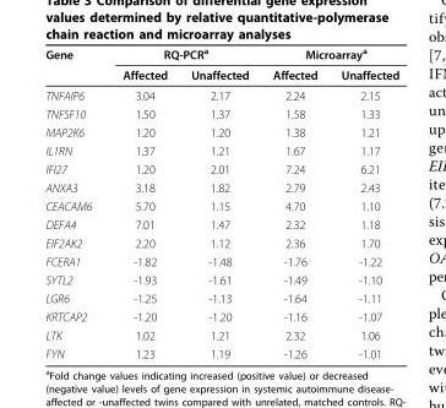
<table><thead><tr><td rowspan="2">Gene</td><td colspan="2">RQ-PCR<sup>a</sup></td><td colspan="2">Microarray<sup>a</sup></td></tr><tr><td>Affected</td><td>Unaffected</td><td>Affected</td><td>Unaffected</td></tr></thead><tbody><tr><td>TNFAIP6</td><td>3.04</td><td>2.17</td><td>2.24</td><td>2.15</td></tr><tr><td>TNFSF10</td><td>1.50</td><td>1.37</td><td>1.58</td><td>1.33</td></tr><tr><td>MAP2K6</td><td>1.20</td><td>1.20</td><td>1.38</td><td>1.21</td></tr><tr><td>IL1RN</td><td>1.37</td><td>1.21</td><td>1.67</td><td>1.17</td></tr><tr><td>IFI27</td><td>1.20</td><td>2.01</td><td>7.24</td><td>6.21</td></tr><tr><td>ANXA3</td><td>3.18</td><td>1.82</td><td>2.79</td><td>2.43</td></tr><tr><td>CEACAM6</td><td>5.70</td><td>1.15</td><td>4.70</td><td>1.10</td></tr><tr><td>DEFA4</td><td>7.01</td><td>1.47</td><td>2.32</td><td>1.18</td></tr><tr><td>EIF2AK2</td><td>2.20</td><td>1.12</td><td>2.36</td><td>1.70</td></tr><tr><td>FCERA1</td><td>-1.82</td><td>-1.48</td><td>-1.76</td><td>-1.22</td></tr><tr><td>SYTL2</td><td>-1.93</td><td>-1.61</td><td>-1.49</td><td>-1.10</td></tr><tr><td>LGR6</td><td>-1.25</td><td>-1.13</td><td>-1.64</td><td>-1.11</td></tr><tr><td>KRTCAP2</td><td>-1.20</td><td>-1.20</td><td>-1.16</td><td>-1.07</td></tr><tr><td>LTK</td><td>1.02</td><td>1.21</td><td>2.32</td><td>1.06</td></tr><tr><td>FYN</td><td>1.23</td><td>1.19</td><td>-1.26</td><td>-1.01</td></tr></tbody></table>